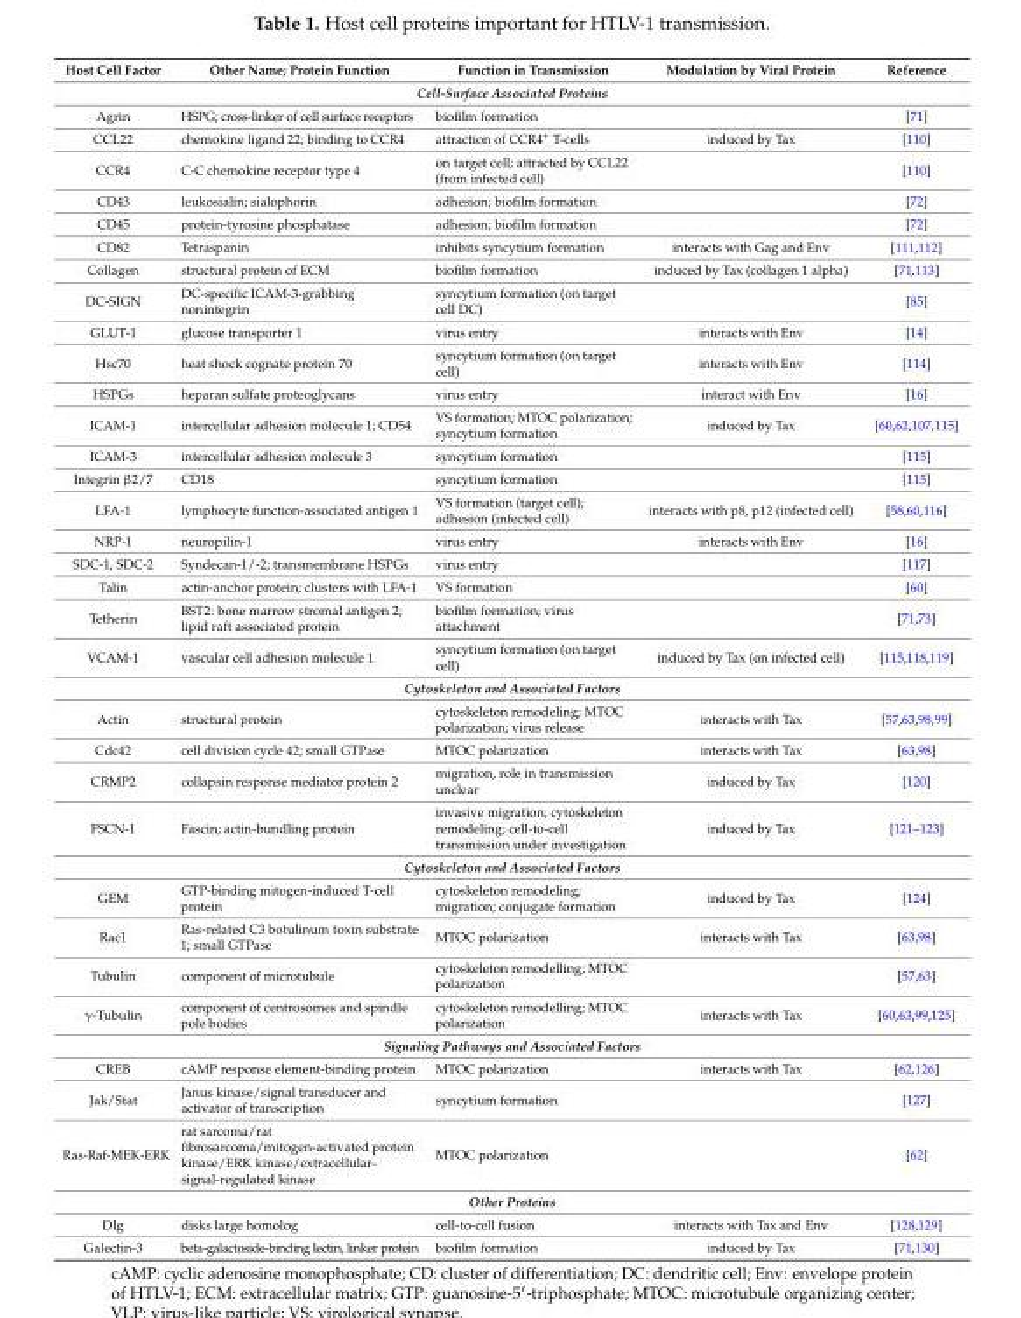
<table><thead><tr><td>Host Cell Factor</td><td>Other Name; Protein Function</td><td>Function in Transmission</td><td>Modulation by Viral Protein</td><td>Reference</td></tr></thead><tbody><tr><td colspan="5">Cell-Surface Associated Proteins</td></tr><tr><td>Agrin</td><td>HSPG; cross-linker of cell surface receptors</td><td>biofilm formation</td><td></td><td>[71]</td></tr><tr><td>CCL22</td><td>chemokine ligand 22; binding to CCR4</td><td>attraction of CCR4<sup>+</sup> T-cells</td><td>induced by Tax</td><td>[110]</td></tr><tr><td>CCR4</td><td>C-C chemokine receptor type 4</td><td>on target cell; attracted by CCL22 (from infected cell)</td><td></td><td>[110]</td></tr><tr><td>CD43</td><td>leukosialin; sialophorin</td><td>adhesion; biofilm formation</td><td></td><td>[72]</td></tr><tr><td>CD45</td><td>protein-tyrosine phosphatase</td><td>adhesion; biofilm formation</td><td></td><td>[72]</td></tr><tr><td>CD82</td><td>Tetraspanin</td><td>inhibits syncytium formation</td><td>interacts with Gag and Env</td><td>[111,112]</td></tr><tr><td>Collagen</td><td>structural protein of ECM</td><td>biofilm formation</td><td>induced by Tax (collagen 1 alpha)</td><td>[71,113]</td></tr><tr><td>DC-SIGN</td><td>DC-specific ICAM-3-grabbing nonintegrin</td><td>syncytium formation (on target cell DC)</td><td></td><td>[85]</td></tr><tr><td>GLUT-1</td><td>glucose transporter 1</td><td>virus entry</td><td>interacts with Env</td><td>[14]</td></tr><tr><td>Hsc70</td><td>heat shock cognate protein 70</td><td>syncytium formation (on target cell)</td><td>interacts with Env</td><td>[114]</td></tr><tr><td>HSPGs</td><td>heparan sulfate proteoglycans</td><td>virus entry</td><td>interact with Env</td><td>[16]</td></tr><tr><td>ICAM-1</td><td>intercellular adhesion molecule 1; CD54</td><td>VS formation; MTOC polarization; syncytium formation</td><td>induced by Tax</td><td>[60,62,107,115]</td></tr><tr><td>ICAM-3</td><td>intercellular adhesion molecule 3</td><td>syncytium formation</td><td></td><td>[115]</td></tr><tr><td>Integrin β2/7</td><td>CD18</td><td>syncytium formation</td><td></td><td>[115]</td></tr><tr><td>LFA-1</td><td>lymphocyte function-associated antigen 1</td><td>VS formation (target cell); adhesion (infected cell)</td><td>interacts with p8, p12 (infected cell)</td><td>[58,60,116]</td></tr><tr><td>NRP-1</td><td>neuropilin-1</td><td>virus entry</td><td>interacts with Env</td><td>[16]</td></tr><tr><td>SDC-1, SDC-2</td><td>Syndecan-1/-2; transmembrane HSPGs</td><td>virus entry</td><td></td><td>[117]</td></tr><tr><td>Talin</td><td>actin-anchor protein; clusters with LFA-1</td><td>VS formation</td><td></td><td>[60]</td></tr><tr><td>Tetherin</td><td>BST2: bone marrow stromal antigen 2; lipid raft associated protein</td><td>biofilm formation; virus attachment</td><td></td><td>[71,73]</td></tr><tr><td>VCAM-1</td><td>vascular cell adhesion molecule 1</td><td>syncytium formation (on target cell)</td><td>induced by Tax (on infected cell)</td><td>[115,118,119]</td></tr><tr><td colspan="5">Cytoskeleton and Associated Factors</td></tr><tr><td>Actin</td><td>structural protein</td><td>cytoskeleton remodeling; MTOC polarization; virus release</td><td>interacts with Tax</td><td>[57,63,98,99]</td></tr><tr><td>Cdc42</td><td>cell division cycle 42; small GTPase</td><td>MTOC polarization</td><td>interacts with Tax</td><td>[63,98]</td></tr><tr><td>CRMP2</td><td>collapsin response mediator protein 2</td><td>migration, role in transmission unclear</td><td>induced by Tax</td><td>[120]</td></tr><tr><td>FSCN-1</td><td>Fascin; actin-bundling protein</td><td>invasive migration; cytoskeleton remodeling; cell-to-cell transmission under investigation</td><td>induced by Tax</td><td>[121–123]</td></tr><tr><td colspan="5">Cytoskeleton and Associated Factors</td></tr><tr><td>GEM</td><td>GTP-binding mitogen-induced T-cell protein</td><td>cytoskeleton remodeling; migration; conjugate formation</td><td>induced by Tax</td><td>[124]</td></tr><tr><td>Rac1</td><td>Ras-related C3 botulinum toxin substrate 1; small GTPase</td><td>MTOC polarization</td><td>interacts with Tax</td><td>[63,98]</td></tr><tr><td>Tubulin</td><td>component of microtubule</td><td>cytoskeleton remodelling; MTOC polarization</td><td></td><td>[57,63]</td></tr><tr><td>γ-Tubulin</td><td>component of centrosomes and spindle pole bodies</td><td>cytoskeleton remodelling; MTOC polarization</td><td>interacts with Tax</td><td>[60,63,99,125]</td></tr><tr><td colspan="5">Signaling Pathways and Associated Factors</td></tr><tr><td>CREB</td><td>cAMP response element-binding protein</td><td>MTOC polarization</td><td>interacts with Tax</td><td>[62,126]</td></tr><tr><td>Jak/Stat</td><td>Janus kinase/signal transducer and activator of transcription</td><td>syncytium formation</td><td></td><td>[127]</td></tr><tr><td>Ras-Raf-MEK-ERK</td><td>rat sarcoma/rat fibrosarcoma/mitogen-activated protein kinase/ERK kinase/extracellular- signal-regulated kinase</td><td>MTOC polarization</td><td></td><td>[62]</td></tr><tr><td colspan="5">Other Proteins</td></tr><tr><td>Dlg</td><td>disks large homolog</td><td>cell-to-cell fusion</td><td>interacts with Tax and Env</td><td>[128,129]</td></tr><tr><td>Galectin-3</td><td>beta-galactoside-binding lectin, linker protein</td><td>biofilm formation</td><td>induced by Tax</td><td>[71,130]</td></tr></tbody></table>